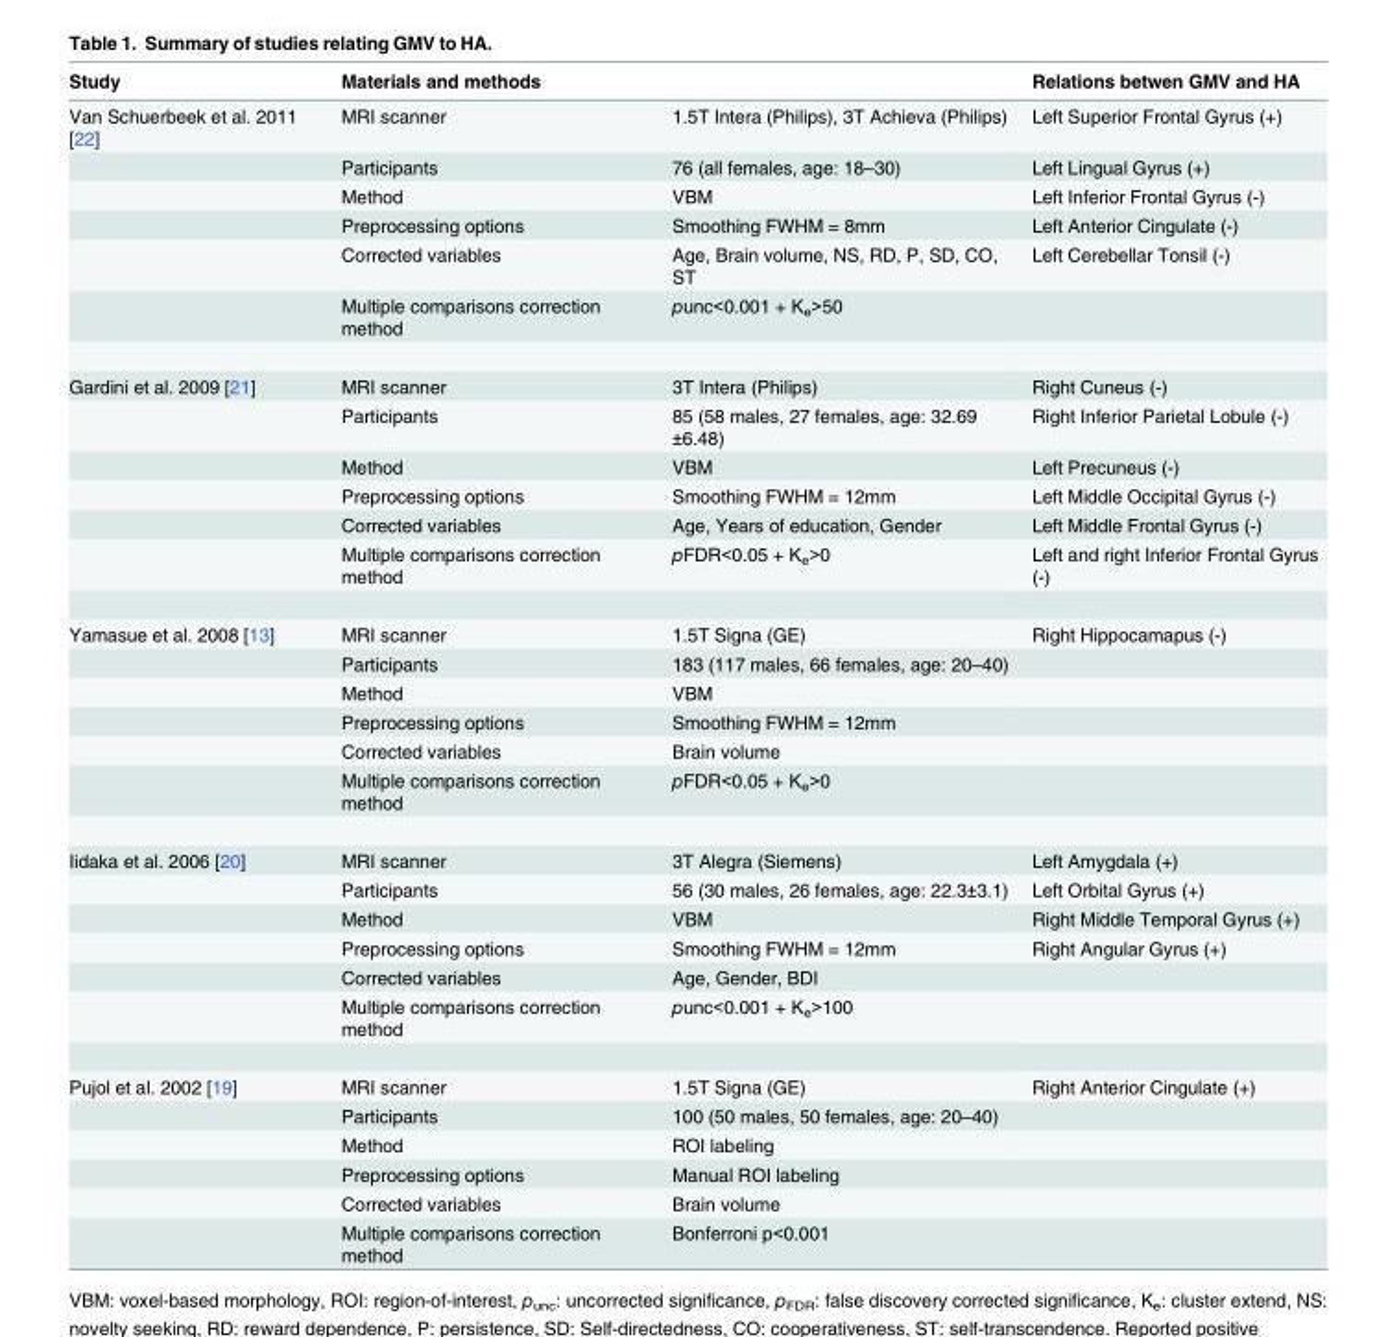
<table><thead><tr><td rowspan="2">Study Van Schuerbeek et al. 2011 [22]</td><td colspan="2">Materials and methods</td><td rowspan="2">Relations betwen GMV and HA Left Superior Frontal Gyrus (+)</td></tr><tr><td>MRI scanner</td><td>1.5T Intera (Philips), 3T Achieva (Philips)</td></tr></thead><tbody><tr><td></td><td>Participants</td><td>76 (all females, age: 18–30)</td><td>Left Lingual Gyrus (+)</td></tr><tr><td></td><td>Method</td><td>VBM</td><td>Left Inferior Frontal Gyrus (-)</td></tr><tr><td></td><td>Preprocessing options</td><td>Smoothing FWHM = 8mm</td><td>Left Anterior Cingulate (-)</td></tr><tr><td></td><td>Corrected variables</td><td>Age, Brain volume, NS, RD, P, SD, CO, ST</td><td>Left Cerebellar Tonsil (-)</td></tr><tr><td></td><td>Multiple comparisons correction method</td><td>punc&lt;0.001 + K<sub>e</sub>&gt;50</td><td></td></tr><tr><td rowspan="6">Gardini et al. 2009 [21]</td><td>MRI scanner</td><td>3T Intera (Philips)</td><td>Right Cuneus (-)</td></tr><tr><td>Participants</td><td>85 (58 males, 27 females, age: 32.69 ±6.48)</td><td>Right Inferior Parietal Lobule (-)</td></tr><tr><td>Method</td><td>VBM</td><td>Left Precuneus (-)</td></tr><tr><td>Preprocessing options</td><td>Smoothing FWHM = 12mm</td><td>Left Middle Occipital Gyrus (-)</td></tr><tr><td>Corrected variables</td><td>Age, Years of education, Gender</td><td>Left Middle Frontal Gyrus (-)</td></tr><tr><td>Multiple comparisons correction method</td><td>pFDR&lt;0.05 + K<sub>e</sub>&gt;0</td><td>Left and right Inferior Frontal Gyrus (-)</td></tr><tr><td rowspan="6">Yamasue et al. 2008 [13]</td><td>MRI scanner</td><td>1.5T Signa (GE)</td><td>Right Hippocamapus (-)</td></tr><tr><td>Participants</td><td>183 (117 males, 66 females, age: 20–40)</td><td></td></tr><tr><td>Method</td><td>VBM</td><td></td></tr><tr><td>Preprocessing options</td><td>Smoothing FWHM = 12mm</td><td></td></tr><tr><td>Corrected variables</td><td>Brain volume</td><td></td></tr><tr><td>Multiple comparisons correction method</td><td>pFDR&lt;0.05 + K<sub>e</sub>&gt;0</td><td></td></tr><tr><td rowspan="6">Iidaka et al. 2006 [20]</td><td>MRI scanner</td><td>3T Alegra (Siemens)</td><td>Left Amygdala (+)</td></tr><tr><td>Participants</td><td>56 (30 males, 26 females, age: 22.3±3.1)</td><td>Left Orbital Gyrus (+)</td></tr><tr><td>Method</td><td>VBM</td><td>Right Middle Temporal Gyrus (+)</td></tr><tr><td>Preprocessing options</td><td>Smoothing FWHM = 12mm</td><td>Right Angular Gyrus (+)</td></tr><tr><td>Corrected variables</td><td>Age, Gender, BDI</td><td></td></tr><tr><td>Multiple comparisons correction method</td><td>punc&lt;0.001 + K<sub>e</sub>&gt;100</td><td></td></tr><tr><td rowspan="6">Pujol et al. 2002 [19]</td><td>MRI scanner</td><td>1.5T Signa (GE)</td><td>Right Anterior Cingulate (+)</td></tr><tr><td>Participants</td><td>100 (50 males, 50 females, age: 20–40)</td><td></td></tr><tr><td>Method</td><td>ROI labeling</td><td></td></tr><tr><td>Preprocessing options</td><td>Manual ROI labeling</td><td></td></tr><tr><td>Corrected variables</td><td>Brain volume</td><td></td></tr><tr><td>Multiple comparisons correction method</td><td>Bonferroni p&lt;0.001</td><td></td></tr></tbody></table>